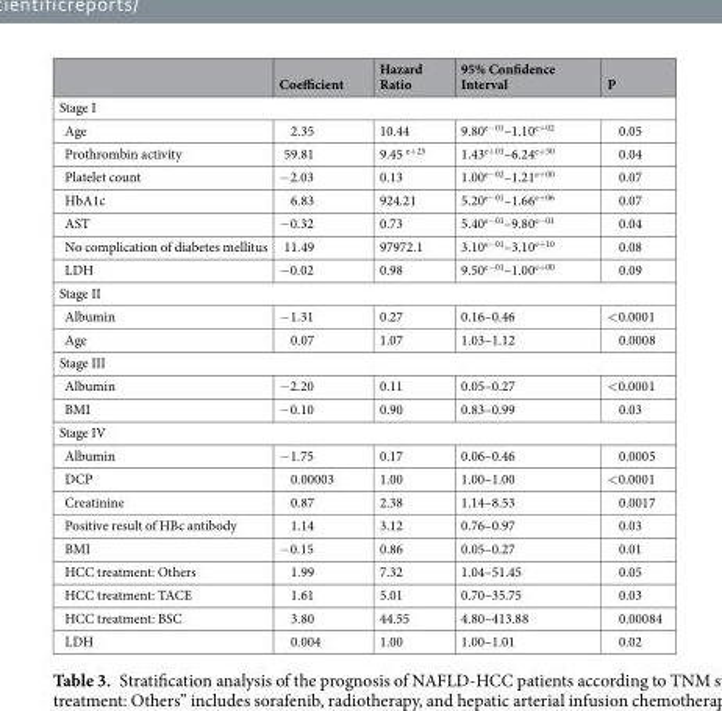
<table><thead><tr><td></td><td>Coefficient</td><td>Hazard Ratio</td><td>95% Confidence Interval</td><td>P</td></tr></thead><tbody><tr><td colspan="5">Stage I</td></tr><tr><td>Age</td><td>2.35</td><td>10.44</td><td>9.80<sup>e−01</sup>–1.10<sup>e+02</sup></td><td>0.05</td></tr><tr><td>Prothrombin activity</td><td>59.81</td><td>9.45 <sup>e+25</sup></td><td>1.43<sup>e+01</sup>–6.24<sup>e+50</sup></td><td>0.04</td></tr><tr><td>Platelet count</td><td>−2.03</td><td>0.13</td><td>1.00<sup>e−02</sup>–1.21<sup>e+00</sup></td><td>0.07</td></tr><tr><td>HbA1c</td><td>6.83</td><td>924.21</td><td>5.20<sup>e−01</sup>–1.66<sup>e+06</sup></td><td>0.07</td></tr><tr><td>AST</td><td>−0.32</td><td>0.73</td><td>5.40<sup>e−01</sup>–9.80<sup>e−01</sup></td><td>0.04</td></tr><tr><td>No complication of diabetes mellitus</td><td>11.49</td><td>97972.1</td><td>3.10<sup>e−01</sup>–3.10<sup>e+10</sup></td><td>0.08</td></tr><tr><td>LDH</td><td>−0.02</td><td>0.98</td><td>9.50<sup>e−01</sup>–1.00<sup>e+00</sup></td><td>0.09</td></tr><tr><td colspan="5">Stage II</td></tr><tr><td>Albumin</td><td>−1.31</td><td>0.27</td><td>0.16–0.46</td><td>&lt;0.0001</td></tr><tr><td>Age</td><td>0.07</td><td>1.07</td><td>1.03–1.12</td><td>0.0008</td></tr><tr><td colspan="5">Stage III</td></tr><tr><td>Albumin</td><td>−2.20</td><td>0.11</td><td>0.05–0.27</td><td>&lt;0.0001</td></tr><tr><td>BMI</td><td>−0.10</td><td>0.90</td><td>0.83–0.99</td><td>0.03</td></tr><tr><td colspan="5">Stage IV</td></tr><tr><td>Albumin</td><td>−1.75</td><td>0.17</td><td>0.06–0.46</td><td>0.0005</td></tr><tr><td>DCP</td><td>0.00003</td><td>1.00</td><td>1.00–1.00</td><td>&lt;0.0001</td></tr><tr><td>Creatinine</td><td>0.87</td><td>2.38</td><td>1.14–8.53</td><td>0.0017</td></tr><tr><td>Positive result of HBc antibody</td><td>1.14</td><td>3.12</td><td>0.76–0.97</td><td>0.03</td></tr><tr><td>BMI</td><td>−0.15</td><td>0.86</td><td>0.05–0.27</td><td>0.01</td></tr><tr><td>HCC treatment: Others</td><td>1.99</td><td>7.32</td><td>1.04–51.45</td><td>0.05</td></tr><tr><td>HCC treatment: TACE</td><td>1.61</td><td>5.01</td><td>0.70–35.75</td><td>0.03</td></tr><tr><td>HCC treatment: BSC</td><td>3.80</td><td>44.55</td><td>4.80–413.88</td><td>0.00084</td></tr><tr><td>LDH</td><td>0.004</td><td>1.00</td><td>1.00–1.01</td><td>0.02</td></tr></tbody></table>